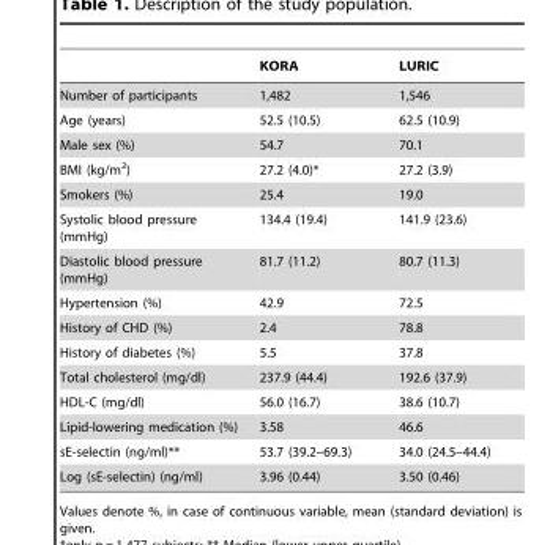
<table><thead><tr><td></td><td>KORA</td><td>LURIC</td></tr></thead><tbody><tr><td>Number of participants</td><td>1,482</td><td>1,546</td></tr><tr><td>Age (years)</td><td>52.5 (10.5)</td><td>62.5 (10.9)</td></tr><tr><td>Male sex (%)</td><td>54.7</td><td>70.1</td></tr><tr><td>BMI (kg/m<sup>2</sup>)</td><td>27.2 (4.0)*</td><td>27.2 (3.9)</td></tr><tr><td>Smokers (%)</td><td>25.4</td><td>19.0</td></tr><tr><td>Systolic blood pressure (mmHg)</td><td>134.4 (19.4)</td><td>141.9 (23.6)</td></tr><tr><td>Diastolic blood pressure (mmHg)</td><td>81.7 (11.2)</td><td>80.7 (11.3)</td></tr><tr><td>Hypertension (%)</td><td>42.9</td><td>72.5</td></tr><tr><td>History of CHD (%)</td><td>2.4</td><td>78.8</td></tr><tr><td>History of diabetes (%)</td><td>5.5</td><td>37.8</td></tr><tr><td>Total cholesterol (mg/dl)</td><td>237.9 (44.4)</td><td>192.6 (37.9)</td></tr><tr><td>HDL-C (mg/dl)</td><td>56.0 (16.7)</td><td>38.6 (10.7)</td></tr><tr><td>Lipid-lowering medication (%)</td><td>3.58</td><td>46.6</td></tr><tr><td>sE-selectin (ng/ml)**</td><td>53.7 (39.2–69.3)</td><td>34.0 (24.5–44.4)</td></tr><tr><td>Log (sE-selectin) (ng/ml)</td><td>3.96 (0.44)</td><td>3.50 (0.46)</td></tr></tbody></table>